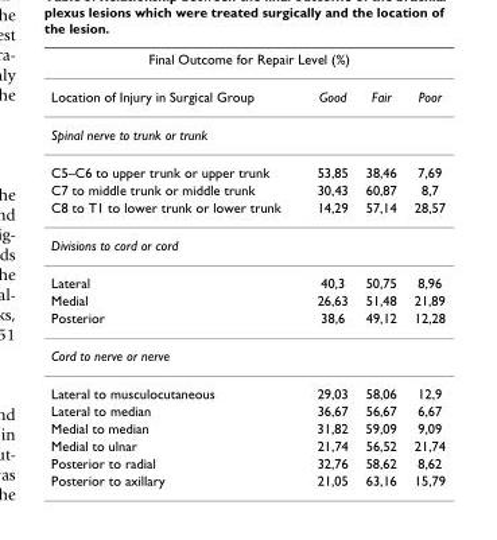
<table><thead><tr><td colspan="4">Final Outcome for Repair Level (%)</td></tr><tr><td>Location of Injury in Surgical Group</td><td>Good</td><td>Fair</td><td>Poor</td></tr></thead><tbody><tr><td colspan="4">Spinal nerve to trunk or trunk</td></tr><tr><td>C5–C6 to upper trunk or upper trunk</td><td>53,85</td><td>38,46</td><td>7,69</td></tr><tr><td>C7 to middle trunk or middle trunk</td><td>30,43</td><td>60,87</td><td>8,7</td></tr><tr><td>C8 to T1 to lower trunk or lower trunk</td><td>14,29</td><td>57,14</td><td>28,57</td></tr><tr><td colspan="4">Divisions to cord or cord</td></tr><tr><td>Lateral</td><td>40,3</td><td>50,75</td><td>8,96</td></tr><tr><td>Medial</td><td>26,63</td><td>51,48</td><td>21,89</td></tr><tr><td>Posterior</td><td>38,6</td><td>49,12</td><td>12,28</td></tr><tr><td colspan="4">Cord to nerve or nerve</td></tr><tr><td>Lateral to musculocutaneous</td><td>29,03</td><td>58,06</td><td>12,9</td></tr><tr><td>Lateral to median</td><td>36,67</td><td>56,67</td><td>6,67</td></tr><tr><td>Medial to median</td><td>31,82</td><td>59,09</td><td>9,09</td></tr><tr><td>Medial to ulnar</td><td>21,74</td><td>56,52</td><td>21,74</td></tr><tr><td>Posterior to radial</td><td>32,76</td><td>58,62</td><td>8,62</td></tr><tr><td>Posterior to axillary</td><td>21,05</td><td>63,16</td><td>15,79</td></tr></tbody></table>